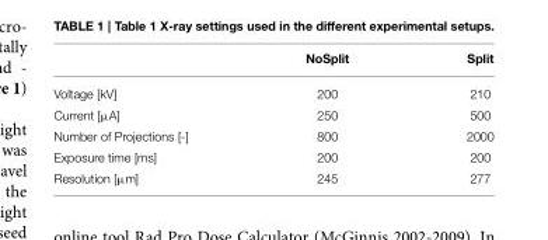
<table><thead><tr><td></td><td>NoSplit</td><td>Split</td></tr></thead><tbody><tr><td>Voltage [kV]</td><td>200</td><td>210</td></tr><tr><td>Current [µA]</td><td>250</td><td>500</td></tr><tr><td>Number of Projections [-]</td><td>800</td><td>2000</td></tr><tr><td>Exposure time [ms]</td><td>200</td><td>200</td></tr><tr><td>Resolution [µm]</td><td>245</td><td>277</td></tr></tbody></table>